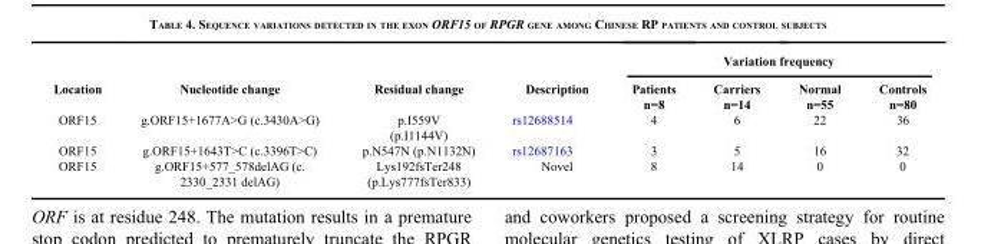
<table><thead><tr><td rowspan="2">Location</td><td rowspan="2">Nucleotide change</td><td rowspan="2">Residual change</td><td rowspan="2">Description</td><td colspan="4">Variation frequency</td></tr><tr><td>Patients n=8</td><td>Carriers n=14</td><td>Normal n=55</td><td>Controls n=80</td></tr></thead><tbody><tr><td>ORF15</td><td>g.ORF15+1677A&gt;G (c.3430A&gt;G)</td><td>p.I559V (p.I1144V)</td><td>rs12688514</td><td>4</td><td>6</td><td>22</td><td>36</td></tr><tr><td>ORF15</td><td>g.ORF15+1643T&gt;C (c.3396T&gt;C)</td><td>p.N547N (p.N1132N)</td><td>rs12687163</td><td>3</td><td>5</td><td>16</td><td>32</td></tr><tr><td>ORF15</td><td>g.ORF15+577_578delAG (c. 2330_2331 delAG)</td><td>Lys192fsTer248 (p.Lys777fsTer833)</td><td>Novel</td><td>8</td><td>14</td><td>0</td><td>0</td></tr></tbody></table>